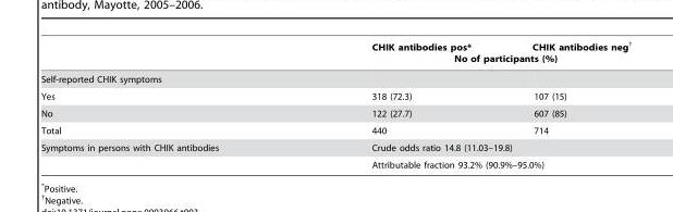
<table><thead><tr><td rowspan="2">Self-reported CHIK symptoms</td><td colspan="2">CHIK antibodies pos* CHIK antibodies neg† No of participants (%)</td></tr><tr><td></td><td></td></tr></thead><tbody><tr><td>Yes</td><td>318 (72.3)</td><td>107 (15)</td></tr><tr><td>No</td><td>122 (27.7)</td><td>607 (85)</td></tr><tr><td>Total</td><td>440</td><td>714</td></tr><tr><td rowspan="2">Symptoms in persons with CHIK antibodies</td><td colspan="2">Crude odds ratio 14.8 (11.03–19.8)</td></tr><tr><td colspan="2">Attributable fraction 93.2% (90.9%–95.0%)</td></tr></tbody></table>